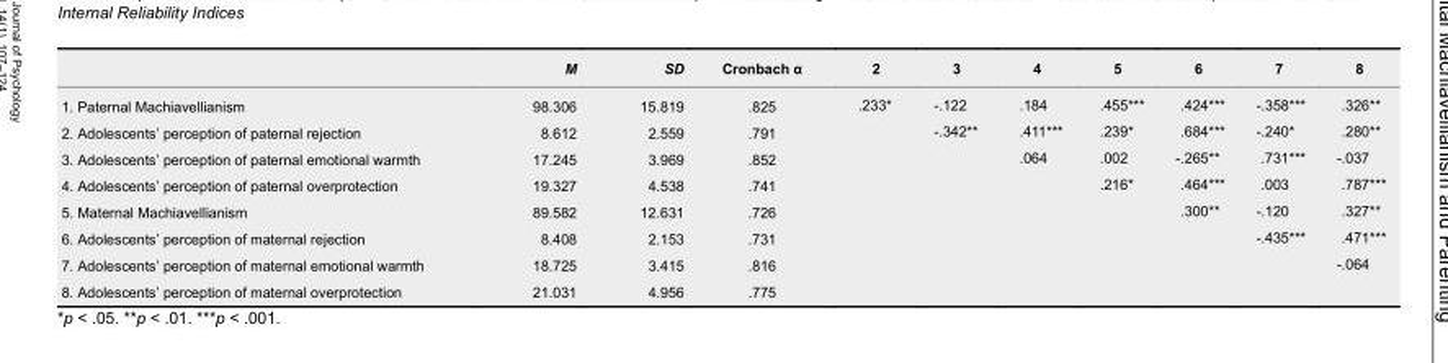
<table><thead><tr><td></td><td>M</td><td>SD</td><td>Cronbach α</td><td>2</td><td>3</td><td>4</td><td>5</td><td>6</td><td>7</td><td>8</td></tr></thead><tbody><tr><td>1. Paternal Machiavellianism</td><td>98.306</td><td>15.819</td><td>.825</td><td>.233*</td><td>-.122</td><td>.184</td><td>.455***</td><td>.424***</td><td>-.358***</td><td>.326**</td></tr><tr><td>2. Adolescents’ perception of paternal rejection</td><td>8.612</td><td>2.559</td><td>.791</td><td></td><td>-.342**</td><td>.411***</td><td>.239*</td><td>.684***</td><td>-.240*</td><td>.280**</td></tr><tr><td>3. Adolescents’ perception of paternal emotional warmth</td><td>17.245</td><td>3.969</td><td>.852</td><td></td><td></td><td>.064</td><td>.002</td><td>-.265**</td><td>.731***</td><td>-.037</td></tr><tr><td>4. Adolescents’ perception of paternal overprotection</td><td>19.327</td><td>4.538</td><td>.741</td><td></td><td></td><td></td><td>.216*</td><td>.464***</td><td>.003</td><td>.787***</td></tr><tr><td>5. Maternal Machiavellianism</td><td>89.582</td><td>12.631</td><td>.726</td><td></td><td></td><td></td><td></td><td>.300**</td><td>-.120</td><td>.327**</td></tr><tr><td>6. Adolescents’ perception of maternal rejection</td><td>8.408</td><td>2.153</td><td>.731</td><td></td><td></td><td></td><td></td><td></td><td>-.435***</td><td>.471***</td></tr><tr><td>7. Adolescents’ perception of maternal emotional warmth</td><td>18.725</td><td>3.415</td><td>.816</td><td></td><td></td><td></td><td></td><td></td><td></td><td>-.064</td></tr><tr><td>8. Adolescents’ perception of maternal overprotection</td><td>21.031</td><td>4.956</td><td>.775</td><td></td><td></td><td></td><td></td><td></td><td></td><td></td></tr></tbody></table>